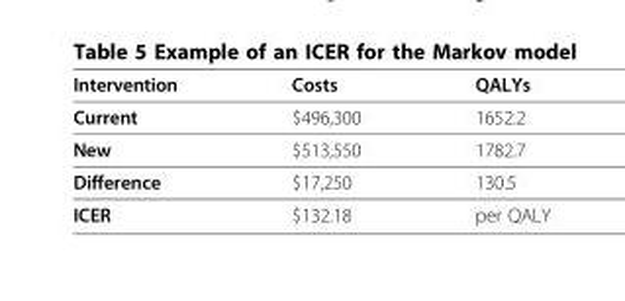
<table><thead><tr><td>Intervention</td><td>Costs</td><td>QALYs</td></tr></thead><tbody><tr><td>Current</td><td>$496,300</td><td>1652.2</td></tr><tr><td>New</td><td>$513,550</td><td>1782.7</td></tr><tr><td>Difference</td><td>$17,250</td><td>130.5</td></tr><tr><td>ICER</td><td>$132.18</td><td>per QALY</td></tr></tbody></table>